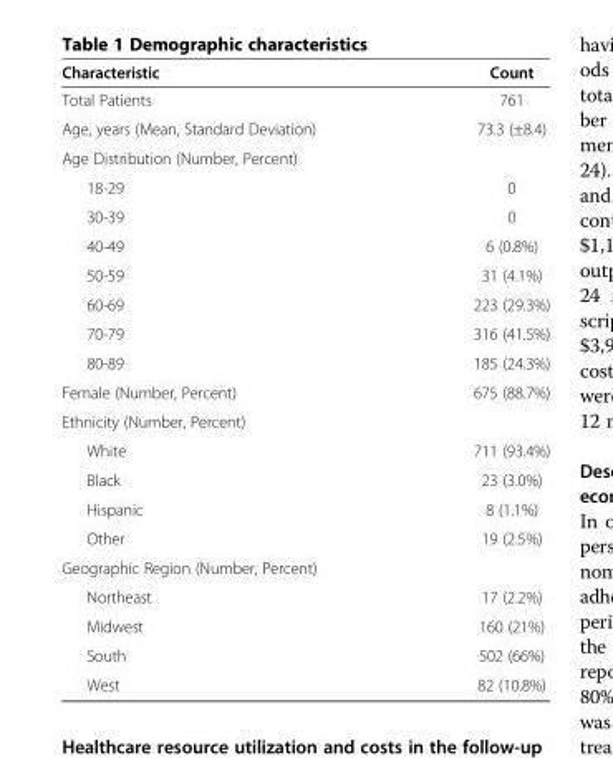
<table><thead><tr><td>Characteristic</td><td>Count</td></tr></thead><tbody><tr><td>Total Patients</td><td>761</td></tr><tr><td>Age, years (Mean, Standard Deviation)</td><td>73.3 (±8.4)</td></tr><tr><td colspan="2">Age Distribution (Number, Percent)</td></tr><tr><td>18-29</td><td>0</td></tr><tr><td>30-39</td><td>0</td></tr><tr><td>40-49</td><td>6 (0.8%)</td></tr><tr><td>50-59</td><td>31 (4.1%)</td></tr><tr><td>60-69</td><td>223 (29.3%)</td></tr><tr><td>70-79</td><td>316 (41.5%)</td></tr><tr><td>80-89</td><td>185 (24.3%)</td></tr><tr><td>Female (Number, Percent)</td><td>675 (88.7%)</td></tr><tr><td colspan="2">Ethnicity (Number, Percent)</td></tr><tr><td>White</td><td>711 (93.4%)</td></tr><tr><td>Black</td><td>23 (3.0%)</td></tr><tr><td>Hispanic</td><td>8 (1.1%)</td></tr><tr><td>Other</td><td>19 (2.5%)</td></tr><tr><td colspan="2">Geographic Region (Number, Percent)</td></tr><tr><td>Northeast</td><td>17 (2.2%)</td></tr><tr><td>Midwest</td><td>160 (21%)</td></tr><tr><td>South</td><td>502 (66%)</td></tr><tr><td>West</td><td>82 (10.8%)</td></tr></tbody></table>